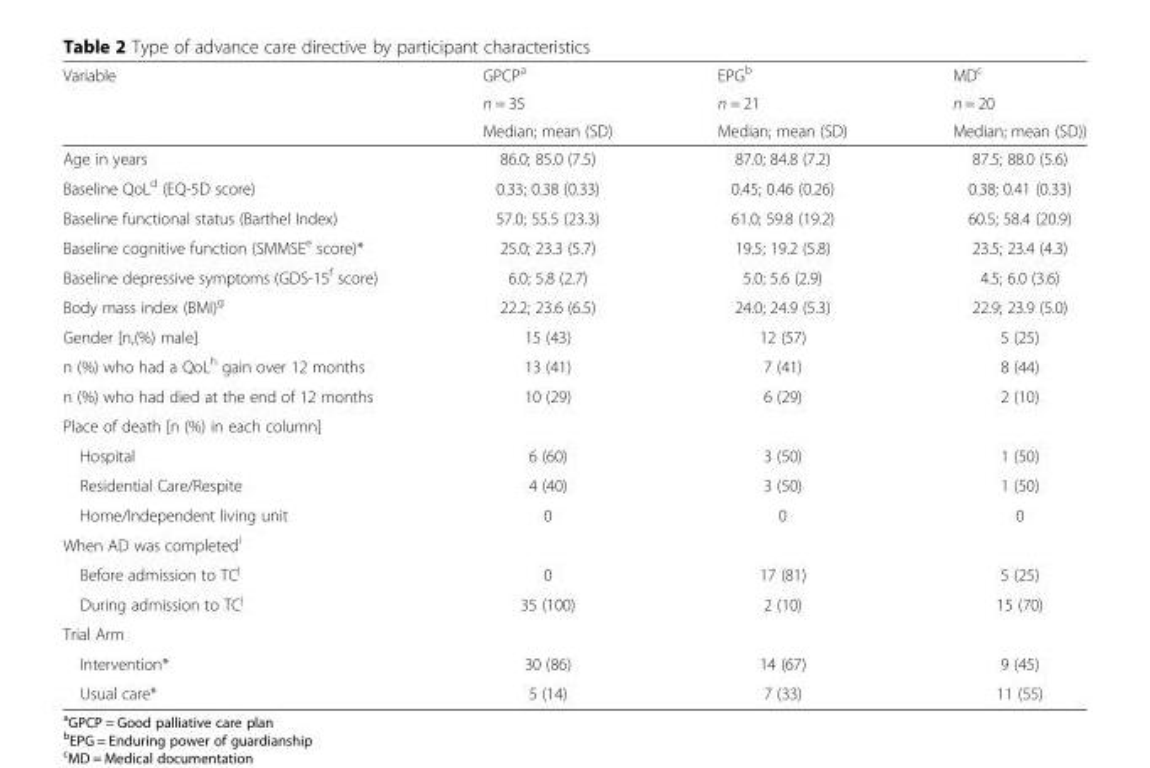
<table><thead><tr><td rowspan="3">Variable</td><td rowspan="3">GPCP<sup>a</sup> n = 35 Median; mean (SD)</td><td rowspan="3">EPG<sup>b</sup> n = 21 Median; mean (SD)</td><td rowspan="3">MD<sup>c</sup> n = 20 Median; mean (SD))</td></tr><tr></tr><tr></tr></thead><tbody><tr><td>Age in years</td><td>86.0; 85.0 (7.5)</td><td>87.0; 84.8 (7.2)</td><td>87.5; 88.0 (5.6)</td></tr><tr><td>Baseline QoL<sup>d</sup> (EQ-5D score)</td><td>0.33; 0.38 (0.33)</td><td>0.45; 0.46 (0.26)</td><td>0.38; 0.41 (0.33)</td></tr><tr><td>Baseline functional status (Barthel Index)</td><td>57.0; 55.5 (23.3)</td><td>61.0; 59.8 (19.2)</td><td>60.5; 58.4 (20.9)</td></tr><tr><td>Baseline cognitive function (SMMSE<sup>e</sup> score)*</td><td>25.0; 23.3 (5.7)</td><td>19.5; 19.2 (5.8)</td><td>23.5; 23.4 (4.3)</td></tr><tr><td>Baseline depressive symptoms (GDS-15<sup>f</sup> score)</td><td>6.0; 5.8 (2.7)</td><td>5.0; 5.6 (2.9)</td><td>4.5; 6.0 (3.6)</td></tr><tr><td>Body mass index (BMI)<sup>g</sup></td><td>22.2; 23.6 (6.5)</td><td>24.0; 24.9 (5.3)</td><td>22.9; 23.9 (5.0)</td></tr><tr><td>Gender [n,(%) male]</td><td>15 (43)</td><td>12 (57)</td><td>5 (25)</td></tr><tr><td>n (%) who had a QoL<sup>h</sup> gain over 12 months</td><td>13 (41)</td><td>7 (41)</td><td>8 (44)</td></tr><tr><td>n (%) who had died at the end of 12 months</td><td>10 (29)</td><td>6 (29)</td><td>2 (10)</td></tr><tr><td colspan="4">Place of death [n (%) in each column]</td></tr><tr><td>Hospital</td><td>6 (60)</td><td>3 (50)</td><td>1 (50)</td></tr><tr><td>Residential Care/Respite</td><td>4 (40)</td><td>3 (50)</td><td>1 (50)</td></tr><tr><td>Home/Independent living unit</td><td>0</td><td>0</td><td>0</td></tr><tr><td colspan="4">When AD was completed<sup>i</sup></td></tr><tr><td>Before admission to TC<sup>j</sup></td><td>0</td><td>17 (81)</td><td>5 (25)</td></tr><tr><td>During admission to TC<sup>j</sup></td><td>35 (100)</td><td>2 (10)</td><td>15 (70)</td></tr><tr><td colspan="4">Trial Arm</td></tr><tr><td>Intervention*</td><td>30 (86)</td><td>14 (67)</td><td>9 (45)</td></tr><tr><td>Usual care*</td><td>5 (14)</td><td>7 (33)</td><td>11 (55)</td></tr></tbody></table>